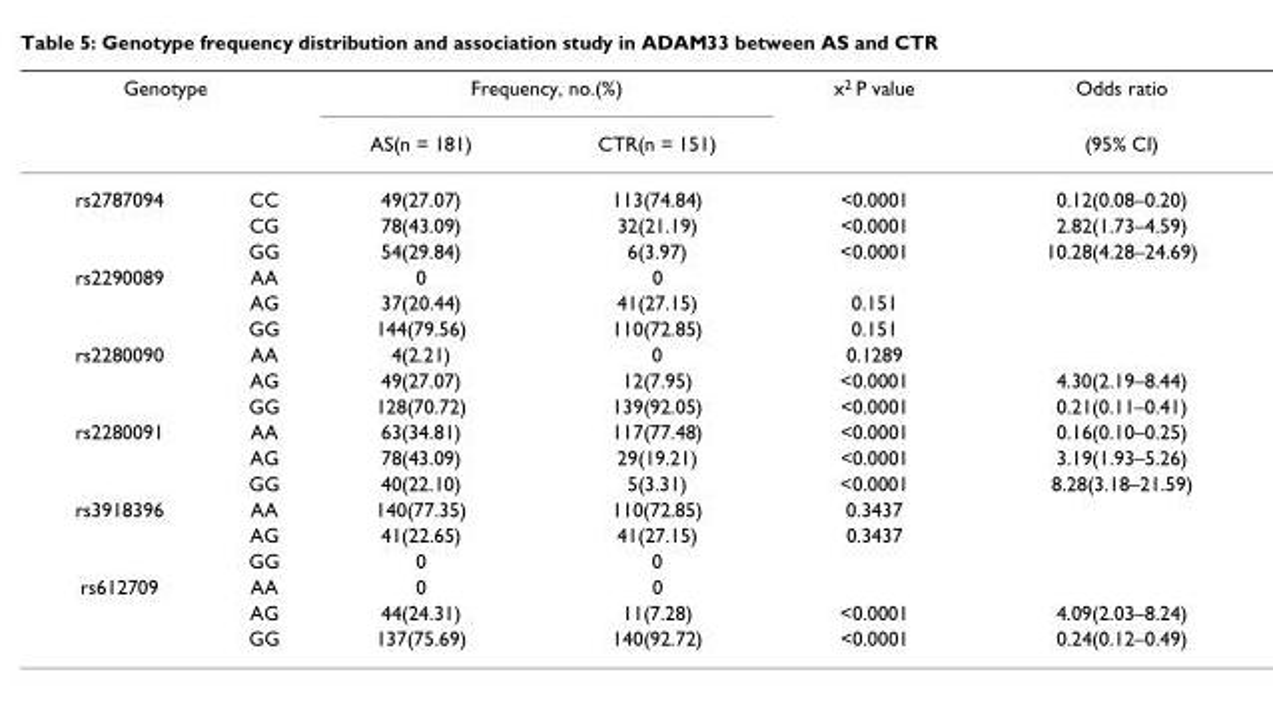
<table><thead><tr><td colspan="2">Genotype</td><td colspan="2">Frequency, no.(%)</td><td rowspan="2">x<sup>2</sup> P value</td><td rowspan="2">Odds ratio (95% CI)</td></tr><tr><td></td><td></td><td>AS(n = 181)</td><td>CTR(n = 151)</td></tr></thead><tbody><tr><td rowspan="3">rs2787094</td><td>CC</td><td>49(27.07)</td><td>113(74.84)</td><td>&lt;0.0001</td><td>0.12(0.08–0.20)</td></tr><tr><td>CG</td><td>78(43.09)</td><td>32(21.19)</td><td>&lt;0.0001</td><td>2.82(1.73–4.59)</td></tr><tr><td>GG</td><td>54(29.84)</td><td>6(3.97)</td><td>&lt;0.0001</td><td>10.28(4.28–24.69)</td></tr><tr><td rowspan="3">rs2290089</td><td>AA</td><td>0</td><td>0</td><td></td><td></td></tr><tr><td>AG</td><td>37(20.44)</td><td>41(27.15)</td><td>0.151</td><td></td></tr><tr><td>GG</td><td>144(79.56)</td><td>110(72.85)</td><td>0.151</td><td></td></tr><tr><td rowspan="3">rs2280090</td><td>AA</td><td>4(2.21)</td><td>0</td><td>0.1289</td><td></td></tr><tr><td>AG</td><td>49(27.07)</td><td>12(7.95)</td><td>&lt;0.0001</td><td>4.30(2.19–8.44)</td></tr><tr><td>GG</td><td>128(70.72)</td><td>139(92.05)</td><td>&lt;0.0001</td><td>0.21(0.11–0.41)</td></tr><tr><td rowspan="3">rs2280091</td><td>AA</td><td>63(34.81)</td><td>117(77.48)</td><td>&lt;0.0001</td><td>0.16(0.10–0.25)</td></tr><tr><td>AG</td><td>78(43.09)</td><td>29(19.21)</td><td>&lt;0.0001</td><td>3.19(1.93–5.26)</td></tr><tr><td>GG</td><td>40(22.10)</td><td>5(3.31)</td><td>&lt;0.0001</td><td>8.28(3.18–21.59)</td></tr><tr><td rowspan="3">rs3918396</td><td>AA</td><td>140(77.35)</td><td>110(72.85)</td><td>0.3437</td><td></td></tr><tr><td>AG</td><td>41(22.65)</td><td>41(27.15)</td><td>0.3437</td><td></td></tr><tr><td>GG</td><td>0</td><td>0</td><td></td><td></td></tr><tr><td rowspan="3">rs612709</td><td>AA</td><td>0</td><td>0</td><td></td><td></td></tr><tr><td>AG</td><td>44(24.31)</td><td>11(7.28)</td><td>&lt;0.0001</td><td>4.09(2.03–8.24)</td></tr><tr><td>GG</td><td>137(75.69)</td><td>140(92.72)</td><td>&lt;0.0001</td><td>0.24(0.12–0.49)</td></tr></tbody></table>